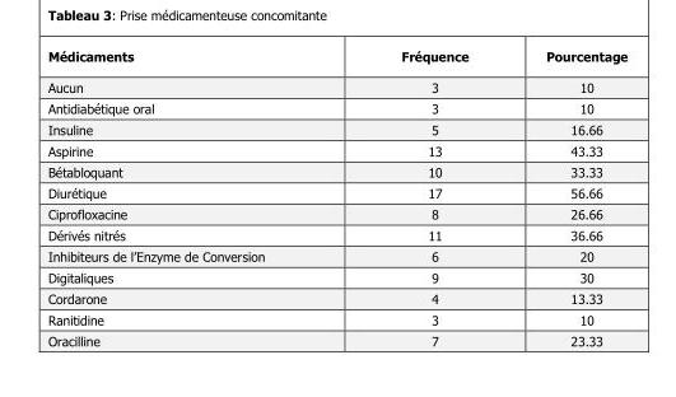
<table><thead><tr><td>Médicaments</td><td>Fréquence</td><td>Pourcentage</td></tr></thead><tbody><tr><td>Aucun</td><td>3</td><td>10</td></tr><tr><td>Antidiabétique oral</td><td>3</td><td>10</td></tr><tr><td>Insuline</td><td>5</td><td>16.66</td></tr><tr><td>Aspirine</td><td>13</td><td>43.33</td></tr><tr><td>Bétabloquant</td><td>10</td><td>33.33</td></tr><tr><td>Diurétique</td><td>17</td><td>56.66</td></tr><tr><td>Ciprofloxacine</td><td>8</td><td>26.66</td></tr><tr><td>Dérivés nitrés</td><td>11</td><td>36.66</td></tr><tr><td>Inhibiteurs de l’Enzyme de Conversion</td><td>6</td><td>20</td></tr><tr><td>Digitaliques</td><td>9</td><td>30</td></tr><tr><td>Cordarone</td><td>4</td><td>13.33</td></tr><tr><td>Ranitidine</td><td>3</td><td>10</td></tr><tr><td>Oracilline</td><td>7</td><td>23.33</td></tr></tbody></table>